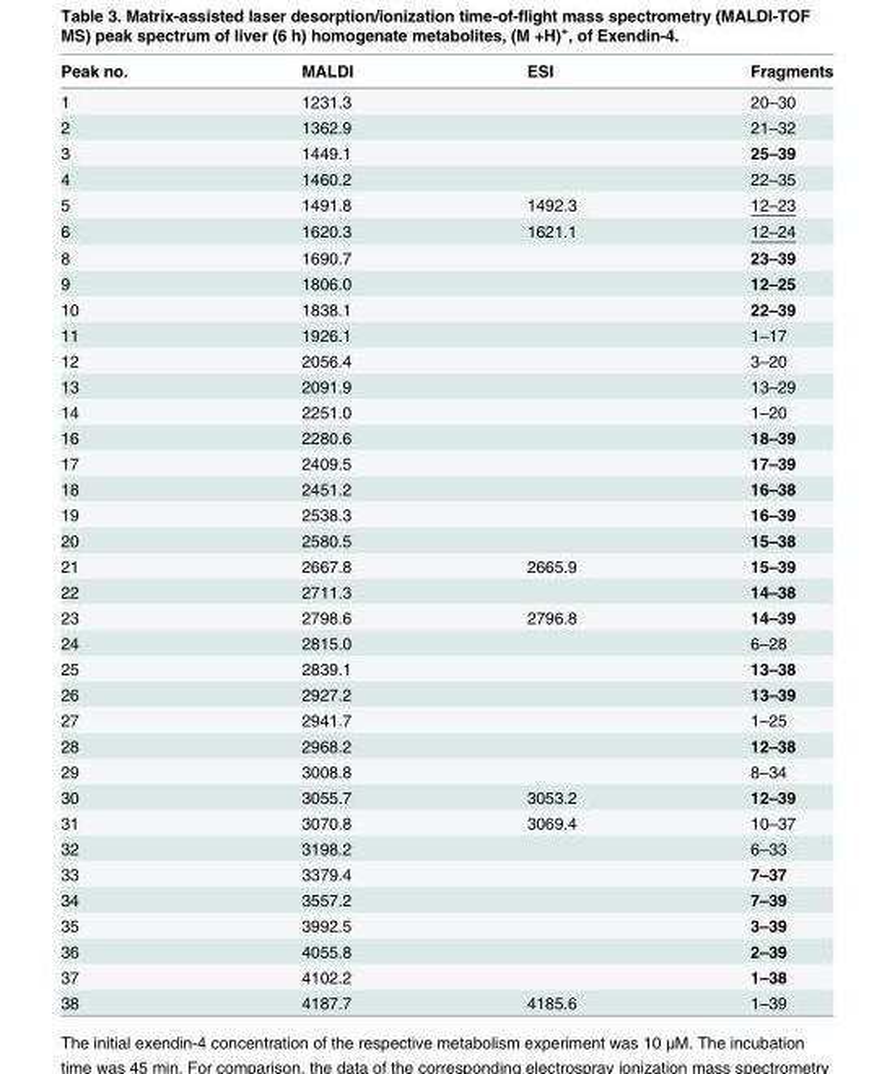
<table><thead><tr><td>Peak no.</td><td>MALDI</td><td>ESI</td><td>Fragments</td></tr></thead><tbody><tr><td>1</td><td>1231.3</td><td></td><td>20–30</td></tr><tr><td>2</td><td>1362.9</td><td></td><td>21–32</td></tr><tr><td>3</td><td>1449.1</td><td></td><td>25–39</td></tr><tr><td>4</td><td>1460.2</td><td></td><td>22–35</td></tr><tr><td>5</td><td>1491.8</td><td>1492.3</td><td>12–23</td></tr><tr><td>6</td><td>1620.3</td><td>1621.1</td><td>12–24</td></tr><tr><td>8</td><td>1690.7</td><td></td><td>23–39</td></tr><tr><td>9</td><td>1806.0</td><td></td><td>12–25</td></tr><tr><td>10</td><td>1838.1</td><td></td><td>22–39</td></tr><tr><td>11</td><td>1926.1</td><td></td><td>1–17</td></tr><tr><td>12</td><td>2056.4</td><td></td><td>3–20</td></tr><tr><td>13</td><td>2091.9</td><td></td><td>13–29</td></tr><tr><td>14</td><td>2251.0</td><td></td><td>1–20</td></tr><tr><td>16</td><td>2280.6</td><td></td><td>18–39</td></tr><tr><td>17</td><td>2409.5</td><td></td><td>17–39</td></tr><tr><td>18</td><td>2451.2</td><td></td><td>16–38</td></tr><tr><td>19</td><td>2538.3</td><td></td><td>16–39</td></tr><tr><td>20</td><td>2580.5</td><td></td><td>15–38</td></tr><tr><td>21</td><td>2667.8</td><td>2665.9</td><td>15–39</td></tr><tr><td>22</td><td>2711.3</td><td></td><td>14–38</td></tr><tr><td>23</td><td>2798.6</td><td>2796.8</td><td>14–39</td></tr><tr><td>24</td><td>2815.0</td><td></td><td>6–28</td></tr><tr><td>25</td><td>2839.1</td><td></td><td>13–38</td></tr><tr><td>26</td><td>2927.2</td><td></td><td>13–39</td></tr><tr><td>27</td><td>2941.7</td><td></td><td>1–25</td></tr><tr><td>28</td><td>2968.2</td><td></td><td>12–38</td></tr><tr><td>29</td><td>3008.8</td><td></td><td>8–34</td></tr><tr><td>30</td><td>3055.7</td><td>3053.2</td><td>12–39</td></tr><tr><td>31</td><td>3070.8</td><td>3069.4</td><td>10–37</td></tr><tr><td>32</td><td>3198.2</td><td></td><td>6–33</td></tr><tr><td>33</td><td>3379.4</td><td></td><td>7–37</td></tr><tr><td>34</td><td>3557.2</td><td></td><td>7–39</td></tr><tr><td>35</td><td>3992.5</td><td></td><td>3–39</td></tr><tr><td>36</td><td>4055.8</td><td></td><td>2–39</td></tr><tr><td>37</td><td>4102.2</td><td></td><td>1–38</td></tr><tr><td>38</td><td>4187.7</td><td>4185.6</td><td>1–39</td></tr></tbody></table>